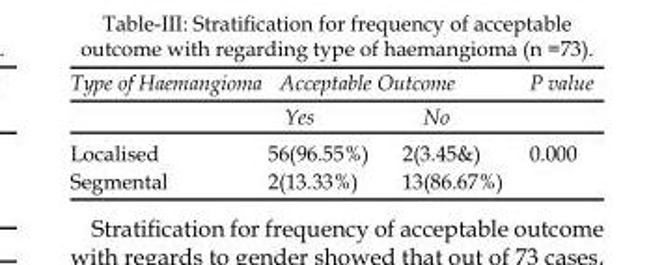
<table><thead><tr><td rowspan="2">Type of Haemangioma</td><td colspan="2">Acceptable Outcome</td><td rowspan="2">P value</td></tr><tr><td>Yes</td><td>No</td></tr></thead><tbody><tr><td>Localised</td><td>56(96.55%)</td><td>2(3.45&amp;)</td><td>0.000</td></tr><tr><td>Segmental</td><td>2(13.33%)</td><td>13(86.67%)</td><td></td></tr></tbody></table>